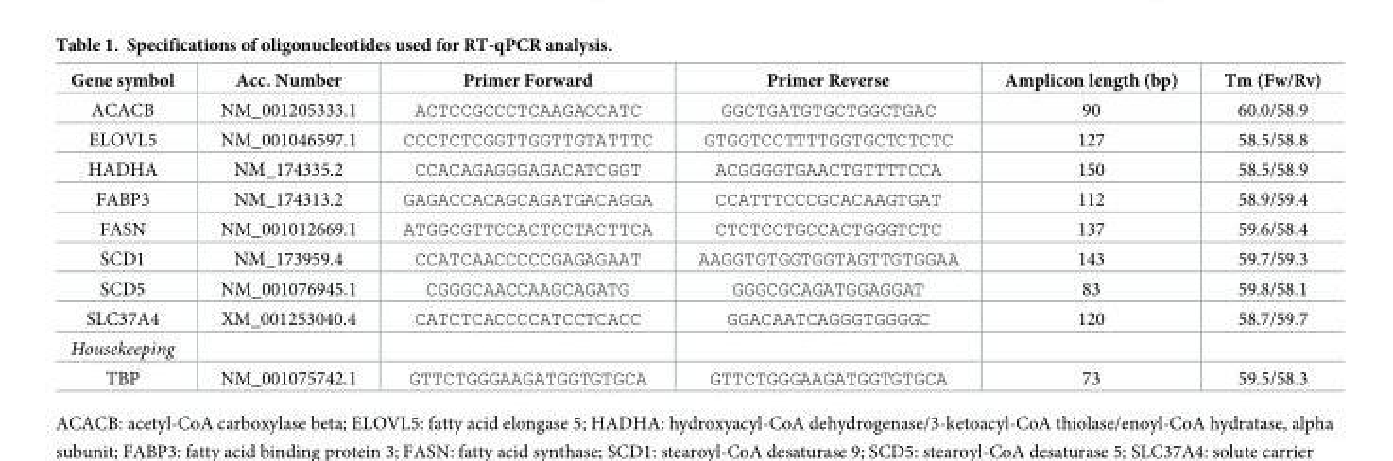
<table><thead><tr><td>Gene symbol</td><td>Acc. Number</td><td>Primer Forward</td><td>Primer Reverse</td><td>Amplicon length (bp)</td><td>Tm (Fw/Rv)</td></tr></thead><tbody><tr><td>ACACB</td><td>NM_001205333.1</td><td>ACTCCGCCCTCAAGACCATC</td><td>GGCTGATGTGCTGGCTGAC</td><td>90</td><td>60.0/58.9</td></tr><tr><td>ELOVL5</td><td>NM_001046597.1</td><td>CCCTCTCGGTTGGTTGTATTTC</td><td>GTGGTCCTTTTGGTGCTCTCTC</td><td>127</td><td>58.5/58.8</td></tr><tr><td>HADHA</td><td>NM_174335.2</td><td>CCACAGAGGGAGACATCGGT</td><td>ACGGGGTGAACTGTTTTCCA</td><td>150</td><td>58.5/58.9</td></tr><tr><td>FABP3</td><td>NM_174313.2</td><td>GAGACCACAGCAGATGACAGGA</td><td>CCATTTCCCGCACAAGTGAT</td><td>112</td><td>58.9/59.4</td></tr><tr><td>FASN</td><td>NM_001012669.1</td><td>ATGGCGTTCCACTCCTACTTCA</td><td>CTCTCCTGCCACTGGGTCTC</td><td>137</td><td>59.6/58.4</td></tr><tr><td>SCD1</td><td>NM_173959.4</td><td>CCATCAACCCCCGAGAGAAT</td><td>AAGGTGTGGTGGTAGTTGTGGAA</td><td>143</td><td>59.7/59.3</td></tr><tr><td>SCD5</td><td>NM_001076945.1</td><td>CGGGCAACCAAGCAGATG</td><td>GGGCGCAGATGGAGGAT</td><td>83</td><td>59.8/58.1</td></tr><tr><td>SLC37A4</td><td>XM_001253040.4</td><td>CATCTCACCCCATCCTCACC</td><td>GGACAATCAGGGTGGGGC</td><td>120</td><td>58.7/59.7</td></tr><tr><td colspan="6">Housekeeping</td></tr><tr><td>TBP</td><td>NM_001075742.1</td><td>GTTCTGGGAAGATGGTGTGCA</td><td>GTTCTGGGAAGATGGTGTGCA</td><td>73</td><td>59.5/58.3</td></tr></tbody></table>